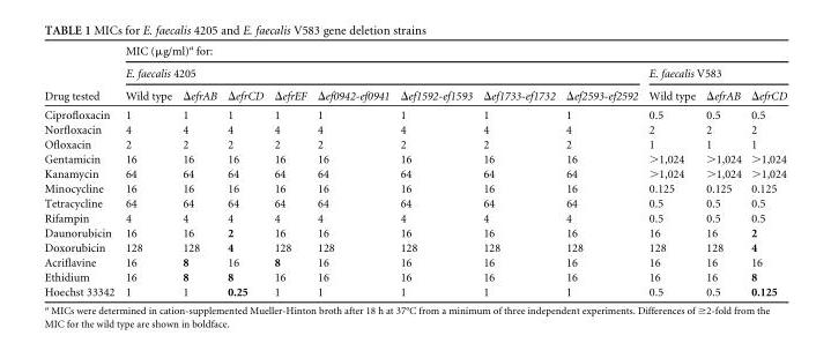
<table><thead><tr><td rowspan="3">Drug tested</td><td colspan="11">MIC (μg/ml)<sup>a</sup> for:</td></tr><tr><td colspan="8">E. faecalis 4205</td><td colspan="3">E. faecalis V583</td></tr><tr><td>Wild type</td><td>ΔefrAB</td><td>ΔefrCD</td><td>ΔefrEF</td><td>Δef0942-ef0941</td><td>Δef1592-ef1593</td><td>Δef1733-ef1732</td><td>Δef2593-ef2592</td><td>Wild type</td><td>ΔefrAB</td><td>ΔefrCD</td></tr></thead><tbody><tr><td>Ciprofloxacin</td><td>1</td><td>1</td><td>1</td><td>1</td><td>1</td><td>1</td><td>1</td><td>1</td><td>0.5</td><td>0.5</td><td>0.5</td></tr><tr><td>Norfloxacin</td><td>4</td><td>4</td><td>4</td><td>4</td><td>4</td><td>4</td><td>4</td><td>4</td><td>2</td><td>2</td><td>2</td></tr><tr><td>Ofloxacin</td><td>2</td><td>2</td><td>2</td><td>2</td><td>2</td><td>2</td><td>2</td><td>2</td><td>1</td><td>1</td><td>1</td></tr><tr><td>Gentamicin</td><td>16</td><td>16</td><td>16</td><td>16</td><td>16</td><td>16</td><td>16</td><td>16</td><td>&gt;1,024</td><td>&gt;1,024</td><td>&gt;1,024</td></tr><tr><td>Kanamycin</td><td>64</td><td>64</td><td>64</td><td>64</td><td>64</td><td>64</td><td>64</td><td>64</td><td>&gt;1,024</td><td>&gt;1,024</td><td>&gt;1,024</td></tr><tr><td>Minocycline</td><td>16</td><td>16</td><td>16</td><td>16</td><td>16</td><td>16</td><td>16</td><td>16</td><td>0.125</td><td>0.125</td><td>0.125</td></tr><tr><td>Tetracycline</td><td>64</td><td>64</td><td>64</td><td>64</td><td>64</td><td>64</td><td>64</td><td>64</td><td>0.5</td><td>0.5</td><td>0.5</td></tr><tr><td>Rifampin</td><td>4</td><td>4</td><td>4</td><td>4</td><td>4</td><td>4</td><td>4</td><td>4</td><td>0.5</td><td>0.5</td><td>0.5</td></tr><tr><td>Daunorubicin</td><td>16</td><td>16</td><td>2</td><td>16</td><td>16</td><td>16</td><td>16</td><td>16</td><td>16</td><td>16</td><td>2</td></tr><tr><td>Doxorubicin</td><td>128</td><td>128</td><td>4</td><td>128</td><td>128</td><td>128</td><td>128</td><td>128</td><td>128</td><td>128</td><td>4</td></tr><tr><td>Acriflavine</td><td>16</td><td>8</td><td>16</td><td>8</td><td>16</td><td>16</td><td>16</td><td>16</td><td>16</td><td>16</td><td>16</td></tr><tr><td>Ethidium</td><td>16</td><td>8</td><td>8</td><td>16</td><td>16</td><td>16</td><td>16</td><td>16</td><td>16</td><td>16</td><td>8</td></tr><tr><td>Hoechst 33342</td><td>1</td><td>1</td><td>0.25</td><td>1</td><td>1</td><td>1</td><td>1</td><td>1</td><td>0.5</td><td>0.5</td><td>0.125</td></tr></tbody></table>